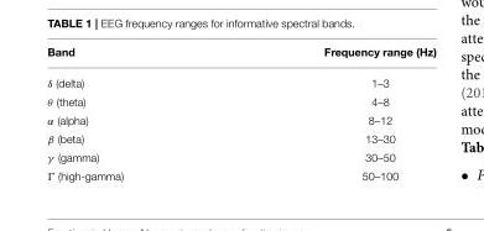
<table><thead><tr><td>Band</td><td>Frequency range (Hz)</td></tr></thead><tbody><tr><td>δ (delta)</td><td>1–3</td></tr><tr><td>θ (theta)</td><td>4–8</td></tr><tr><td>α (alpha)</td><td>8–12</td></tr><tr><td>β (beta)</td><td>13–30</td></tr><tr><td>γ (gamma)</td><td>30–50</td></tr><tr><td>Ŵ (high-gamma)</td><td>50–100</td></tr></tbody></table>